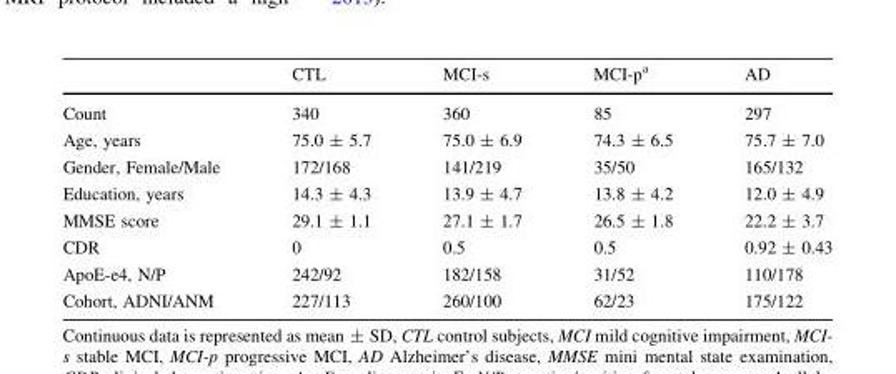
<table><thead><tr><td></td><td>CTL</td><td>MCI-s</td><td>MCI-p<sup>a</sup></td><td>AD</td></tr></thead><tbody><tr><td>Count</td><td>340</td><td>360</td><td>85</td><td>297</td></tr><tr><td>Age, years</td><td>75.0 ± 5.7</td><td>75.0 ± 6.9</td><td>74.3 ± 6.5</td><td>75.7 ± 7.0</td></tr><tr><td>Gender, Female/Male</td><td>172/168</td><td>141/219</td><td>35/50</td><td>165/132</td></tr><tr><td>Education, years</td><td>14.3 ± 4.3</td><td>13.9 ± 4.7</td><td>13.8 ± 4.2</td><td>12.0 ± 4.9</td></tr><tr><td>MMSE score</td><td>29.1 ± 1.1</td><td>27.1 ± 1.7</td><td>26.5 ± 1.8</td><td>22.2 ± 3.7</td></tr><tr><td>CDR</td><td>0</td><td>0.5</td><td>0.5</td><td>0.92 ± 0.43</td></tr><tr><td>ApoE-e4, N/P</td><td>242/92</td><td>182/158</td><td>31/52</td><td>110/178</td></tr><tr><td>Cohort, ADNI/ANM</td><td>227/113</td><td>260/100</td><td>62/23</td><td>175/122</td></tr></tbody></table>